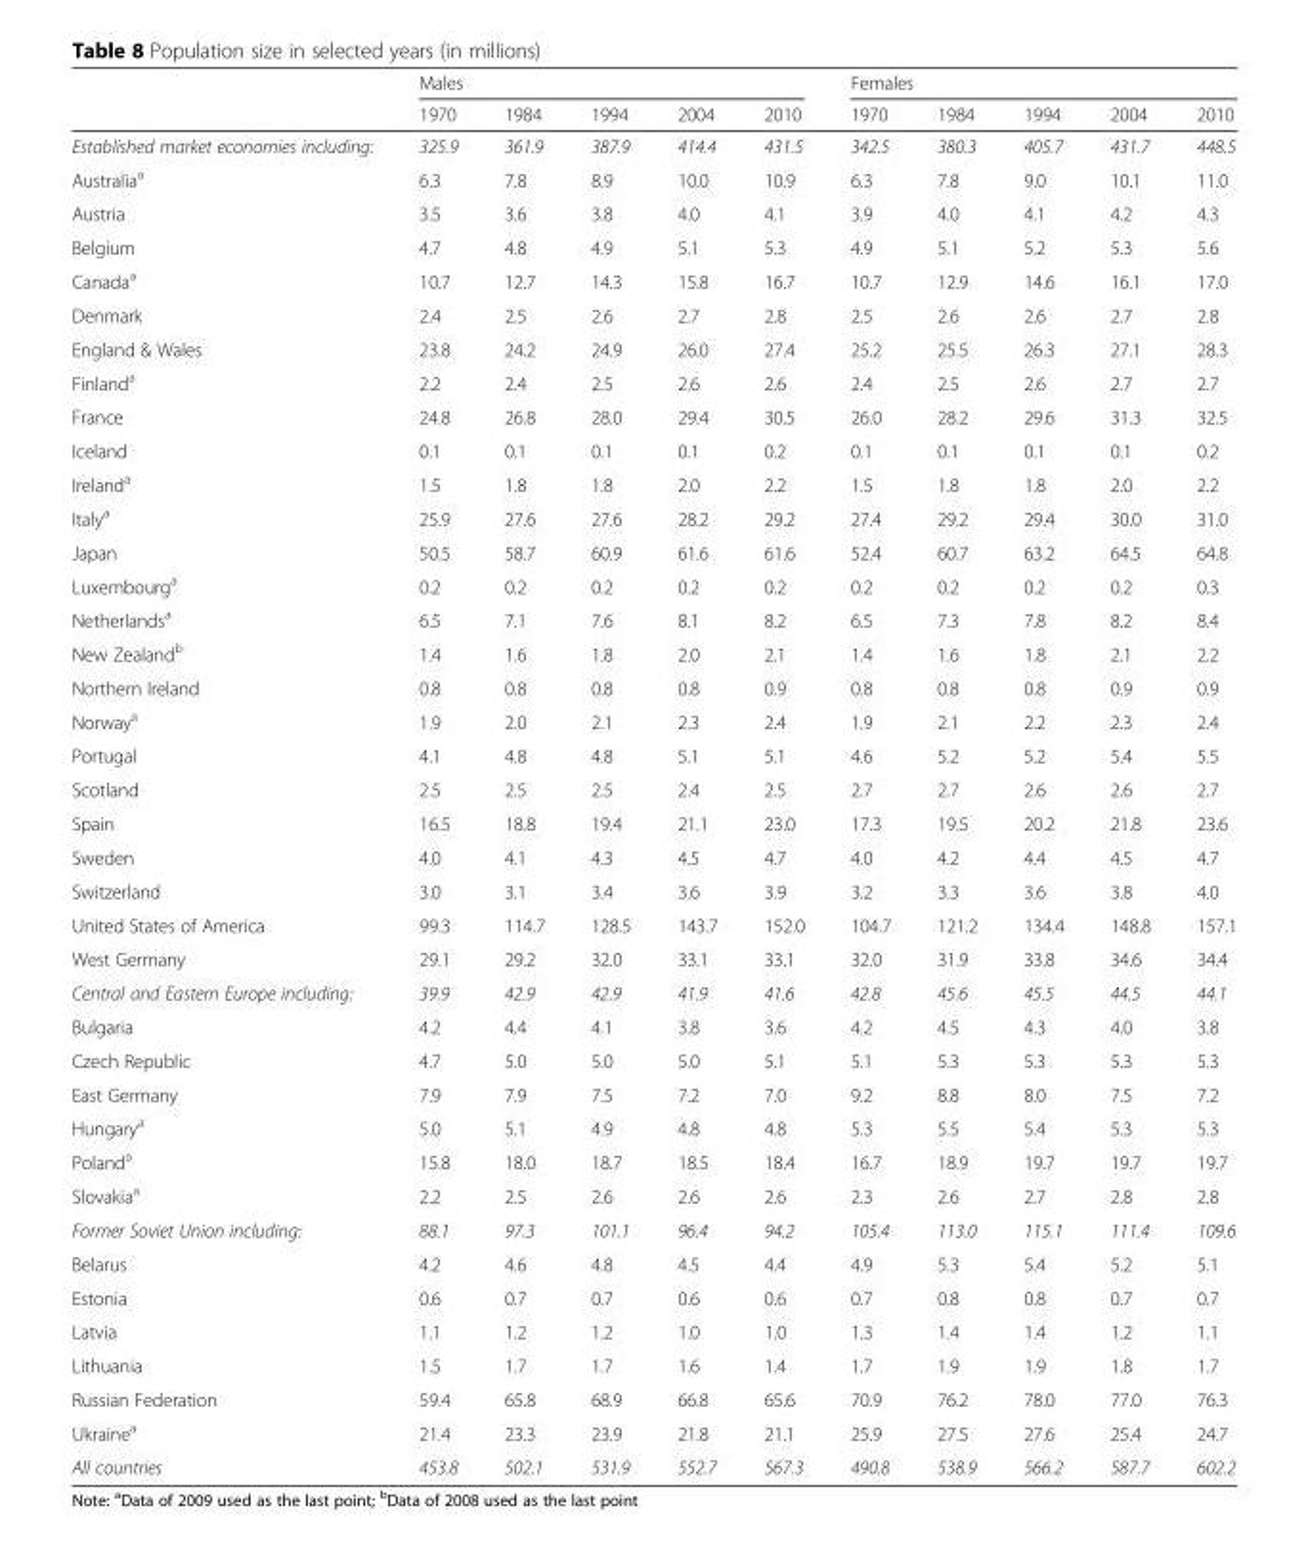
<table><thead><tr><td rowspan="2"></td><td colspan="5">Males</td><td colspan="5">Females</td></tr><tr><td>1970</td><td>1984</td><td>1994</td><td>2004</td><td>2010</td><td>1970</td><td>1984</td><td>1994</td><td>2004</td><td>2010</td></tr></thead><tbody><tr><td>Established market economies including:</td><td>325.9</td><td>361.9</td><td>387.9</td><td>414.4</td><td>431.5</td><td>342.5</td><td>380.3</td><td>405.7</td><td>431.7</td><td>448.5</td></tr><tr><td>Australia<sup>a</sup></td><td>6.3</td><td>7.8</td><td>8.9</td><td>10.0</td><td>10.9</td><td>6.3</td><td>7.8</td><td>9.0</td><td>10.1</td><td>11.0</td></tr><tr><td>Austria</td><td>3.5</td><td>3.6</td><td>3.8</td><td>4.0</td><td>4.1</td><td>3.9</td><td>4.0</td><td>4.1</td><td>4.2</td><td>4.3</td></tr><tr><td>Belgium</td><td>4.7</td><td>4.8</td><td>4.9</td><td>5.1</td><td>5.3</td><td>4.9</td><td>5.1</td><td>5.2</td><td>5.3</td><td>5.6</td></tr><tr><td>Canada<sup>a</sup></td><td>10.7</td><td>12.7</td><td>14.3</td><td>15.8</td><td>16.7</td><td>10.7</td><td>12.9</td><td>14.6</td><td>16.1</td><td>17.0</td></tr><tr><td>Denmark</td><td>2.4</td><td>2.5</td><td>2.6</td><td>2.7</td><td>2.8</td><td>2.5</td><td>2.6</td><td>2.6</td><td>2.7</td><td>2.8</td></tr><tr><td>England &amp; Wales</td><td>23.8</td><td>24.2</td><td>24.9</td><td>26.0</td><td>27.4</td><td>25.2</td><td>25.5</td><td>26.3</td><td>27.1</td><td>28.3</td></tr><tr><td>Finland<sup>a</sup></td><td>2.2</td><td>2.4</td><td>2.5</td><td>2.6</td><td>2.6</td><td>2.4</td><td>2.5</td><td>2.6</td><td>2.7</td><td>2.7</td></tr><tr><td>France</td><td>24.8</td><td>26.8</td><td>28.0</td><td>29.4</td><td>30.5</td><td>26.0</td><td>28.2</td><td>29.6</td><td>31.3</td><td>32.5</td></tr><tr><td>Iceland</td><td>0.1</td><td>0.1</td><td>0.1</td><td>0.1</td><td>0.2</td><td>0.1</td><td>0.1</td><td>0.1</td><td>0.1</td><td>0.2</td></tr><tr><td>Ireland<sup>a</sup></td><td>1.5</td><td>1.8</td><td>1.8</td><td>2.0</td><td>2.2</td><td>1.5</td><td>1.8</td><td>1.8</td><td>2.0</td><td>2.2</td></tr><tr><td>Italy<sup>a</sup></td><td>25.9</td><td>27.6</td><td>27.6</td><td>28.2</td><td>29.2</td><td>27.4</td><td>29.2</td><td>29.4</td><td>30.0</td><td>31.0</td></tr><tr><td>Japan</td><td>50.5</td><td>58.7</td><td>60.9</td><td>61.6</td><td>61.6</td><td>52.4</td><td>60.7</td><td>63.2</td><td>64.5</td><td>64.8</td></tr><tr><td>Luxembourg<sup>a</sup></td><td>0.2</td><td>0.2</td><td>0.2</td><td>0.2</td><td>0.2</td><td>0.2</td><td>0.2</td><td>0.2</td><td>0.2</td><td>0.3</td></tr><tr><td>Netherlands<sup>a</sup></td><td>6.5</td><td>7.1</td><td>7.6</td><td>8.1</td><td>8.2</td><td>6.5</td><td>7.3</td><td>7.8</td><td>8.2</td><td>8.4</td></tr><tr><td>New Zealand<sup>b</sup></td><td>1.4</td><td>1.6</td><td>1.8</td><td>2.0</td><td>2.1</td><td>1.4</td><td>1.6</td><td>1.8</td><td>2.1</td><td>2.2</td></tr><tr><td>Northern Ireland</td><td>0.8</td><td>0.8</td><td>0.8</td><td>0.8</td><td>0.9</td><td>0.8</td><td>0.8</td><td>0.8</td><td>0.9</td><td>0.9</td></tr><tr><td>Norway<sup>a</sup></td><td>1.9</td><td>2.0</td><td>2.1</td><td>2.3</td><td>2.4</td><td>1.9</td><td>2.1</td><td>2.2</td><td>2.3</td><td>2.4</td></tr><tr><td>Portugal</td><td>4.1</td><td>4.8</td><td>4.8</td><td>5.1</td><td>5.1</td><td>4.6</td><td>5.2</td><td>5.2</td><td>5.4</td><td>5.5</td></tr><tr><td>Scotland</td><td>2.5</td><td>2.5</td><td>2.5</td><td>2.4</td><td>2.5</td><td>2.7</td><td>2.7</td><td>2.6</td><td>2.6</td><td>2.7</td></tr><tr><td>Spain</td><td>16.5</td><td>18.8</td><td>19.4</td><td>21.1</td><td>23.0</td><td>17.3</td><td>19.5</td><td>20.2</td><td>21.8</td><td>23.6</td></tr><tr><td>Sweden</td><td>4.0</td><td>4.1</td><td>4.3</td><td>4.5</td><td>4.7</td><td>4.0</td><td>4.2</td><td>4.4</td><td>4.5</td><td>4.7</td></tr><tr><td>Switzerland</td><td>3.0</td><td>3.1</td><td>3.4</td><td>3.6</td><td>3.9</td><td>3.2</td><td>3.3</td><td>3.6</td><td>3.8</td><td>4.0</td></tr><tr><td>United States of America</td><td>99.3</td><td>114.7</td><td>128.5</td><td>143.7</td><td>152.0</td><td>104.7</td><td>121.2</td><td>134.4</td><td>148.8</td><td>157.1</td></tr><tr><td>West Germany</td><td>29.1</td><td>29.2</td><td>32.0</td><td>33.1</td><td>33.1</td><td>32.0</td><td>31.9</td><td>33.8</td><td>34.6</td><td>34.4</td></tr><tr><td>Central and Eastern Europe including:</td><td>39.9</td><td>42.9</td><td>42.9</td><td>41.9</td><td>41.6</td><td>42.8</td><td>45.6</td><td>45.5</td><td>44.5</td><td>44.1</td></tr><tr><td>Bulgaria</td><td>4.2</td><td>4.4</td><td>4.1</td><td>3.8</td><td>3.6</td><td>4.2</td><td>4.5</td><td>4.3</td><td>4.0</td><td>3.8</td></tr><tr><td>Czech Republic</td><td>4.7</td><td>5.0</td><td>5.0</td><td>5.0</td><td>5.1</td><td>5.1</td><td>5.3</td><td>5.3</td><td>5.3</td><td>5.3</td></tr><tr><td>East Germany</td><td>7.9</td><td>7.9</td><td>7.5</td><td>7.2</td><td>7.0</td><td>9.2</td><td>8.8</td><td>8.0</td><td>7.5</td><td>7.2</td></tr><tr><td>Hungary<sup>a</sup></td><td>5.0</td><td>5.1</td><td>4.9</td><td>4.8</td><td>4.8</td><td>5.3</td><td>5.5</td><td>5.4</td><td>5.3</td><td>5.3</td></tr><tr><td>Poland<sup>a</sup></td><td>15.8</td><td>18.0</td><td>18.7</td><td>18.5</td><td>18.4</td><td>16.7</td><td>18.9</td><td>19.7</td><td>19.7</td><td>19.7</td></tr><tr><td>Slovakia<sup>a</sup></td><td>2.2</td><td>2.5</td><td>2.6</td><td>2.6</td><td>2.6</td><td>2.3</td><td>2.6</td><td>2.7</td><td>2.8</td><td>2.8</td></tr><tr><td>Former Soviet Union including:</td><td>88.1</td><td>97.3</td><td>101.1</td><td>96.4</td><td>94.2</td><td>105.4</td><td>113.0</td><td>115.1</td><td>111.4</td><td>109.6</td></tr><tr><td>Belarus</td><td>4.2</td><td>4.6</td><td>4.8</td><td>4.5</td><td>4.4</td><td>4.9</td><td>5.3</td><td>5.4</td><td>5.2</td><td>5.1</td></tr><tr><td>Estonia</td><td>0.6</td><td>0.7</td><td>0.7</td><td>0.6</td><td>0.6</td><td>0.7</td><td>0.8</td><td>0.8</td><td>0.7</td><td>0.7</td></tr><tr><td>Latvia</td><td>1.1</td><td>1.2</td><td>1.2</td><td>1.0</td><td>1.0</td><td>1.3</td><td>1.4</td><td>1.4</td><td>1.2</td><td>1.1</td></tr><tr><td>Lithuania</td><td>1.5</td><td>1.7</td><td>1.7</td><td>1.6</td><td>1.4</td><td>1.7</td><td>1.9</td><td>1.9</td><td>1.8</td><td>1.7</td></tr><tr><td>Russian Federation</td><td>59.4</td><td>65.8</td><td>68.9</td><td>66.8</td><td>65.6</td><td>70.9</td><td>76.2</td><td>78.0</td><td>77.0</td><td>76.3</td></tr><tr><td>Ukraine<sup>a</sup></td><td>21.4</td><td>23.3</td><td>23.9</td><td>21.8</td><td>21.1</td><td>25.9</td><td>27.5</td><td>27.6</td><td>25.4</td><td>24.7</td></tr><tr><td>All countries</td><td>453.8</td><td>502.1</td><td>531.9</td><td>552.7</td><td>567.3</td><td>490.8</td><td>538.9</td><td>566.2</td><td>587.7</td><td>602.2</td></tr></tbody></table>